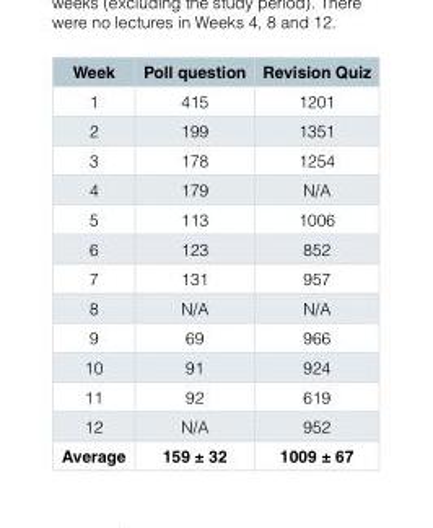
<table><thead><tr><td>Week</td><td>Poll question</td><td>Revision Quiz</td></tr></thead><tbody><tr><td>1</td><td>415</td><td>1201</td></tr><tr><td>2</td><td>199</td><td>1351</td></tr><tr><td>3</td><td>178</td><td>1254</td></tr><tr><td>4</td><td>179</td><td>N/A</td></tr><tr><td>5</td><td>113</td><td>1006</td></tr><tr><td>6</td><td>123</td><td>852</td></tr><tr><td>7</td><td>131</td><td>957</td></tr><tr><td>8</td><td>N/A</td><td>N/A</td></tr><tr><td>9</td><td>69</td><td>966</td></tr><tr><td>10</td><td>91</td><td>924</td></tr><tr><td>11</td><td>92</td><td>619</td></tr><tr><td>12</td><td>N/A</td><td>952</td></tr><tr><td>Average</td><td>159 ± 32</td><td>1009 ± 67</td></tr></tbody></table>